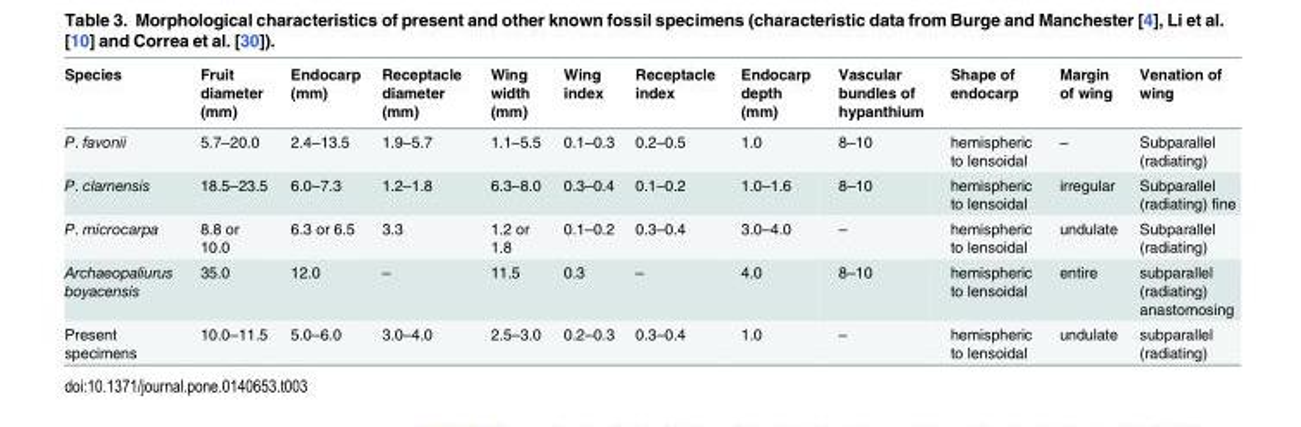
<table><thead><tr><td>Species</td><td>Fruit diameter (mm)</td><td>Endocarp (mm)</td><td>Receptacle diameter (mm)</td><td>Wing width (mm)</td><td>Wing index</td><td>Receptacle index</td><td>Endocarp depth (mm)</td><td>Vascular bundles of hypanthium</td><td>Shape of endocarp</td><td>Margin of wing</td><td>Venation of wing</td></tr></thead><tbody><tr><td>P. favonii</td><td>5.7–20.0</td><td>2.4–13.5</td><td>1.9–5.7</td><td>1.1–5.5</td><td>0.1–0.3</td><td>0.2–0.5</td><td>1.0</td><td>8–10</td><td>hemispheric to lensoidal</td><td>–</td><td>Subparallel (radiating)</td></tr><tr><td>P. clarnensis</td><td>18.5–23.5</td><td>6.0–7.3</td><td>1.2–1.8</td><td>6.3–8.0</td><td>0.3–0.4</td><td>0.1–0.2</td><td>1.0–1.6</td><td>8–10</td><td>hemispheric to lensoidal</td><td>irregular</td><td>Subparallel (radiating) fine</td></tr><tr><td>P. microcarpa</td><td>8.8 or 10.0</td><td>6.3 or 6.5</td><td>3.3</td><td>1.2 or 1.8</td><td>0.1–0.2</td><td>0.3–0.4</td><td>3.0–4.0</td><td>–</td><td>hemispheric to lensoidal</td><td>undulate</td><td>Subparallel (radiating)</td></tr><tr><td>Archaeopaliurus boyacensis</td><td>35.0</td><td>12.0</td><td>–</td><td>11.5</td><td>0.3</td><td>–</td><td>4.0</td><td>8–10</td><td>hemispheric to lensoidal</td><td>entire</td><td>subparallel (radiating) anastomosing</td></tr><tr><td>Present specimens</td><td>10.0–11.5</td><td>5.0–6.0</td><td>3.0–4.0</td><td>2.5–3.0</td><td>0.2–0.3</td><td>0.3–0.4</td><td>1.0</td><td>–</td><td>hemispheric to lensoidal</td><td>undulate</td><td>subparallel (radiating)</td></tr></tbody></table>